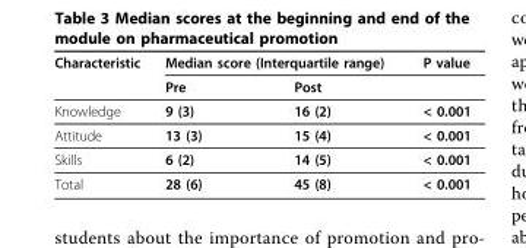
<table><thead><tr><td rowspan="2">Characteristic</td><td colspan="2">Median score (Interquartile range)</td><td rowspan="2">P value</td></tr><tr><td>Pre</td><td>Post</td></tr></thead><tbody><tr><td>Knowledge</td><td>9 (3)</td><td>16 (2)</td><td>&lt; 0.001</td></tr><tr><td>Attitude</td><td>13 (3)</td><td>15 (4)</td><td>&lt; 0.001</td></tr><tr><td>Skills</td><td>6 (2)</td><td>14 (5)</td><td>&lt; 0.001</td></tr><tr><td>Total</td><td>28 (6)</td><td>45 (8)</td><td>&lt; 0.001</td></tr></tbody></table>